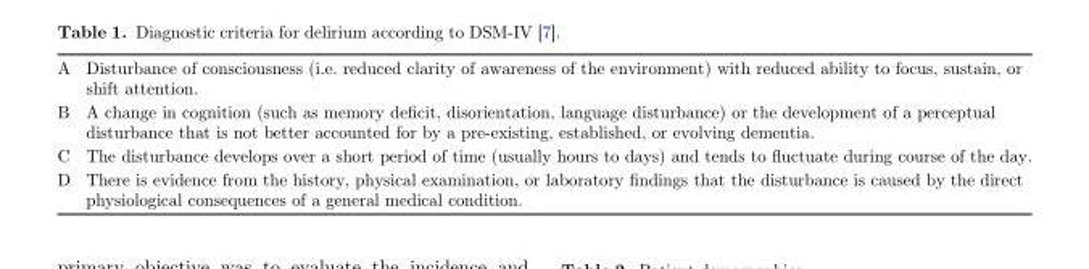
<table><tbody><tr><td>A</td><td>Disturbance of consciousness (i.e. reduced clarity of awareness of the environment) with reduced ability to focus, sustain, or shift attention.</td></tr><tr><td>B</td><td>A change in cognition (such as memory deficit, disorientation, language disturbance) or the development of a perceptual disturbance that is not better accounted for by a pre-existing, established, or evolving dementia.</td></tr><tr><td>C</td><td>The disturbance develops over a short period of time (usually hours to days) and tends to fluctuate during course of the day.</td></tr><tr><td>D</td><td>There is evidence from the history, physical examination, or laboratory findings that the disturbance is caused by the direct physiological consequences of a general medical condition.</td></tr></tbody></table>